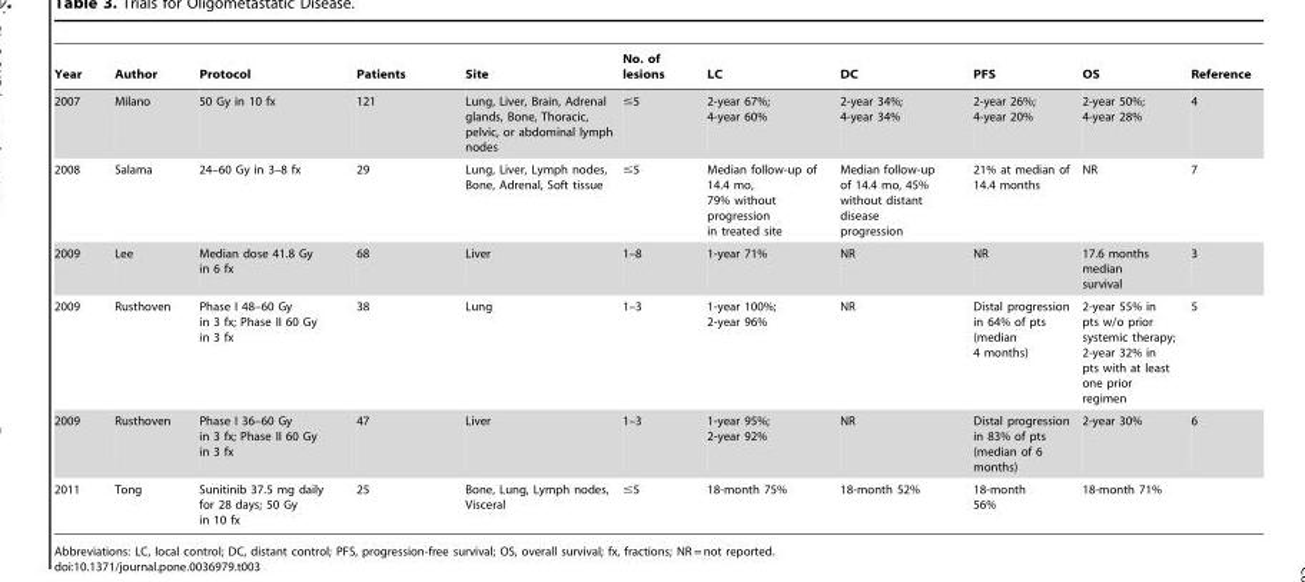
<table><thead><tr><td>Year</td><td>Author</td><td>Protocol</td><td>Patients</td><td>Site</td><td>No. of lesions</td><td>LC</td><td>DC</td><td>PFS</td><td>OS</td><td>Reference</td></tr></thead><tbody><tr><td>2007</td><td>Milano</td><td>50 Gy in 10 fx</td><td>121</td><td>Lung, Liver, Brain, Adrenal glands, Bone, Thoracic, pelvic, or abdominal lymph nodes</td><td>≤5</td><td>2-year 67%; 4-year 60%</td><td>2-year 34%; 4-year 34%</td><td>2-year 26%; 4-year 20%</td><td>2-year 50%; 4-year 28%</td><td>4</td></tr><tr><td>2008</td><td>Salama</td><td>24–60 Gy in 3–8 fx</td><td>29</td><td>Lung, Liver, Lymph nodes, Bone, Adrenal, Soft tissue</td><td>≤5</td><td>Median follow-up of 14.4 mo, 79% without progression in treated site</td><td>Median follow-up of 14.4 mo, 45% without distant disease progression</td><td>21% at median of 14.4 months</td><td>NR</td><td>7</td></tr><tr><td>2009</td><td>Lee</td><td>Median dose 41.8 Gy in 6 fx</td><td>68</td><td>Liver</td><td>1–8</td><td>1-year 71%</td><td>NR</td><td>NR</td><td>17.6 months median survival</td><td>3</td></tr><tr><td>2009</td><td>Rusthoven</td><td>Phase I 48–60 Gy in 3 fx; Phase II 60 Gy in 3 fx</td><td>38</td><td>Lung</td><td>1–3</td><td>1-year 100%; 2-year 96%</td><td>NR</td><td>Distal progression in 64% of pts (median 4 months)</td><td>2-year 55% in pts w/o prior systemic therapy; 2-year 32% in pts with at least one prior regimen</td><td>5</td></tr><tr><td>2009</td><td>Rusthoven</td><td>Phase I 36–60 Gy in 3 fx; Phase II 60 Gy in 3 fx</td><td>47</td><td>Liver</td><td>1–3</td><td>1-year 95%; 2-year 92%</td><td>NR</td><td>Distal progression in 83% of pts (median of 6 months)</td><td>2-year 30%</td><td>6</td></tr><tr><td>2011</td><td>Tong</td><td>Sunitinib 37.5 mg daily for 28 days; 50 Gy in 10 fx</td><td>25</td><td>Bone, Lung, Lymph nodes, Visceral</td><td>≤5</td><td>18-month 75%</td><td>18-month 52%</td><td>18-month 56%</td><td>18-month 71%</td><td></td></tr></tbody></table>